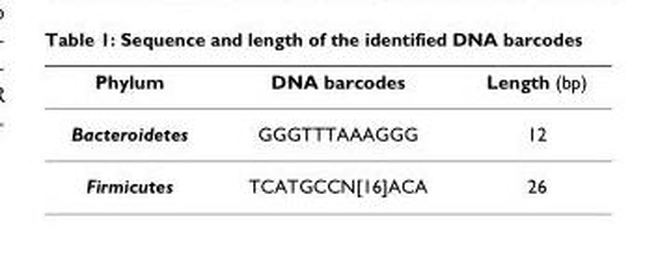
<table><thead><tr><td>Phylum</td><td>DNA barcodes</td><td>Length (bp)</td></tr></thead><tbody><tr><td>Bacteroidetes</td><td>GGGTTTAAAGGG</td><td>12</td></tr><tr><td>Firmicutes</td><td>TCATGCCN[16]ACA</td><td>26</td></tr></tbody></table>